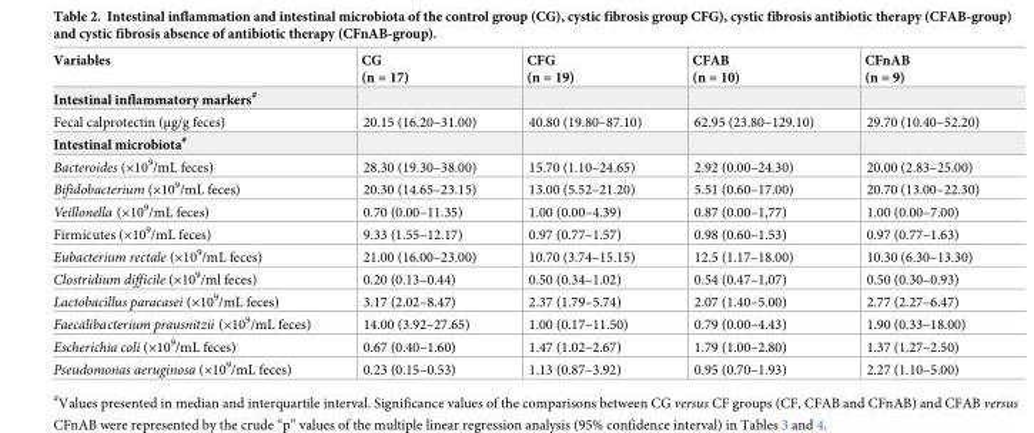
<table><thead><tr><td>Variables</td><td>CG (n = 17)</td><td>CFG (n = 19)</td><td>CFAB (n = 10)</td><td>CFnAB (n = 9)</td></tr></thead><tbody><tr><td colspan="5">Intestinal inflammatory markers<sup>#</sup></td></tr><tr><td>Fecal calprotectin (µg/g feces)</td><td>20.15 (16.20–31.00)</td><td>40.80 (19.80–87.10)</td><td>62.95 (23.80–129.10)</td><td>29.70 (10.40–52.20)</td></tr><tr><td colspan="5">Intestinal microbiota<sup>#</sup></td></tr><tr><td>Bacteroides (×10<sup>9</sup>/mL feces)</td><td>28.30 (19.30–38.00)</td><td>15.70 (1.10–24.65)</td><td>2.92 (0.00–24.30)</td><td>20.00 (2.83–25.00)</td></tr><tr><td>Bifidobacterium (×10<sup>9</sup>/mL feces)</td><td>20.30 (14.65–23.15)</td><td>13.00 (5.52–21.20)</td><td>5.51 (0.60–17.00)</td><td>20.70 (13.00–22.30)</td></tr><tr><td>Veillonella (×10<sup>9</sup>/mL feces)</td><td>0.70 (0.00–11.35)</td><td>1.00 (0.00–4.39)</td><td>0.87 (0.00–1,77)</td><td>1.00 (0.00–7.00)</td></tr><tr><td>Firmicutes (×10<sup>9</sup>/mL feces)</td><td>9.33 (1.55–12.17)</td><td>0.97 (0.77–1.57)</td><td>0.98 (0.60–1.53)</td><td>0.97 (0.77–1.63)</td></tr><tr><td>Eubacterium rectale (×10<sup>9</sup>/mL feces)</td><td>21.00 (16.00–23.00)</td><td>10.70 (3.74–15.15)</td><td>12.5 (1.17–18.00)</td><td>10.30 (6.30–13.30)</td></tr><tr><td>Clostridium difficile (×10<sup>9</sup>/ml feces)</td><td>0.20 (0.13–0.44)</td><td>0.50 (0.34–1.02)</td><td>0.54 (0.47–1,07)</td><td>0.50 (0.30–0.93)</td></tr><tr><td>Lactobacillus paracasei (×10<sup>9</sup>/mL feces)</td><td>3.17 (2.02–8.47)</td><td>2.37 (1.79–5.74)</td><td>2.07 (1.40–5.00)</td><td>2.77 (2.27–6.47)</td></tr><tr><td>Faecalibacterium prausnitzii (×10<sup>9</sup>/mL feces)</td><td>14.00 (3.92–27.65)</td><td>1.00 (0.17–11.50)</td><td>0.79 (0.00–4.43)</td><td>1.90 (0.33–18.00)</td></tr><tr><td>Escherichia coli (×10<sup>9</sup>/mL feces)</td><td>0.67 (0.40–1.60)</td><td>1.47 (1.02–2.67)</td><td>1.79 (1.00–2.80)</td><td>1.37 (1.27–2.50)</td></tr><tr><td>Pseudomonas aeruginosa (×10<sup>9</sup>/mL feces)</td><td>0.23 (0.15–0.53)</td><td>1.13 (0.87–3.92)</td><td>0.95 (0.70–1.93)</td><td>2.27 (1.10–5.00)</td></tr></tbody></table>